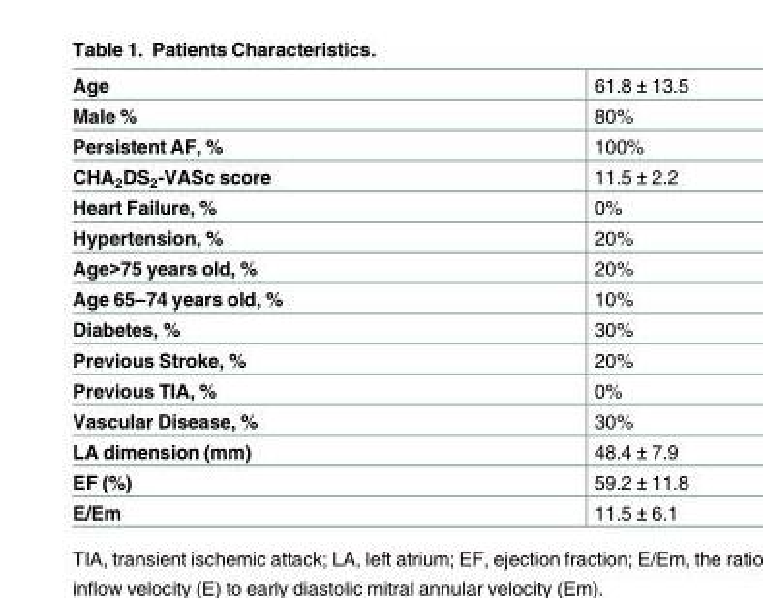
<table><tbody><tr><td>Age</td><td>61.8 ± 13.5</td></tr><tr><td>Male %</td><td>80%</td></tr><tr><td>Persistent AF, %</td><td>100%</td></tr><tr><td>CHA<sub>2</sub>DS<sub>2</sub>-VASc score</td><td>11.5 ± 2.2</td></tr><tr><td>Heart Failure, %</td><td>0%</td></tr><tr><td>Hypertension, %</td><td>20%</td></tr><tr><td>Age&gt;75 years old, %</td><td>20%</td></tr><tr><td>Age 65–74 years old, %</td><td>10%</td></tr><tr><td>Diabetes, %</td><td>30%</td></tr><tr><td>Previous Stroke, %</td><td>20%</td></tr><tr><td>Previous TIA, %</td><td>0%</td></tr><tr><td>Vascular Disease, %</td><td>30%</td></tr><tr><td>LA dimension (mm)</td><td>48.4 ± 7.9</td></tr><tr><td>EF (%)</td><td>59.2 ± 11.8</td></tr><tr><td>E/Em</td><td>11.5 ± 6.1</td></tr></tbody></table>